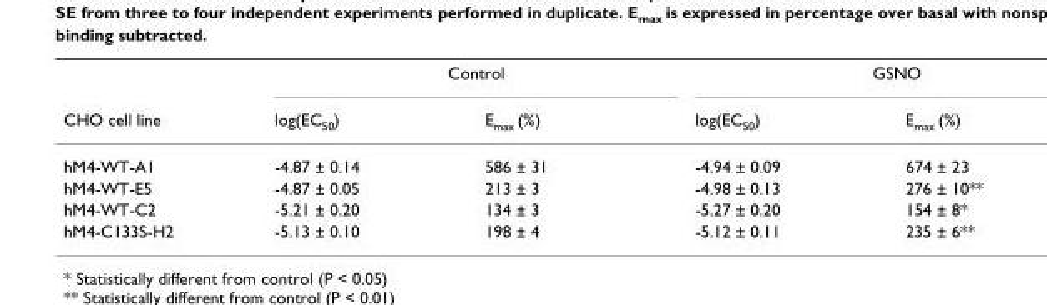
<table><thead><tr><td rowspan="2">CHO cell line</td><td colspan="2">Control</td><td colspan="2">GSNO</td></tr><tr><td>log(EC<sub>50</sub>)</td><td>E<sub>max</sub> (%)</td><td>log(EC<sub>50</sub>)</td><td>E<sub>max</sub> (%)</td></tr></thead><tbody><tr><td>hM4-WT-A1</td><td>-4.87 ± 0.14</td><td>586 ± 31</td><td>-4.94 ± 0.09</td><td>674 ± 23</td></tr><tr><td>hM4-WT-E5</td><td>-4.87 ± 0.05</td><td>213 ± 3</td><td>-4.98 ± 0.13</td><td>276 ± 10**</td></tr><tr><td>hM4-WT-C2</td><td>-5.21 ± 0.20</td><td>134 ± 3</td><td>-5.27 ± 0.20</td><td>154 ± 8*</td></tr><tr><td>hM4-C133S-H2</td><td>-5.13 ± 0.10</td><td>198 ± 4</td><td>-5.12 ± 0.11</td><td>235 ± 6**</td></tr></tbody></table>